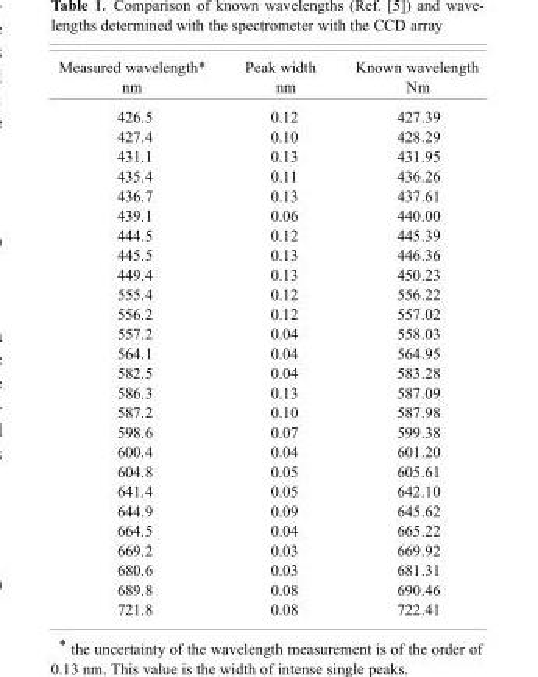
<table><thead><tr><td>Measured wavelength* nm</td><td>Peak width nm</td><td>Known wavelength Nm</td></tr></thead><tbody><tr><td>426.5</td><td>0.12</td><td>427.39</td></tr><tr><td>427.4</td><td>0.10</td><td>428.29</td></tr><tr><td>431.1</td><td>0.13</td><td>431.95</td></tr><tr><td>435.4</td><td>0.11</td><td>436.26</td></tr><tr><td>436.7</td><td>0.13</td><td>437.61</td></tr><tr><td>439.1</td><td>0.06</td><td>440.00</td></tr><tr><td>444.5</td><td>0.12</td><td>445.39</td></tr><tr><td>445.5</td><td>0.13</td><td>446.36</td></tr><tr><td>449.4</td><td>0.13</td><td>450.23</td></tr><tr><td>555.4</td><td>0.12</td><td>556.22</td></tr><tr><td>556.2</td><td>0.12</td><td>557.02</td></tr><tr><td>557.2</td><td>0.04</td><td>558.03</td></tr><tr><td>564.1</td><td>0.04</td><td>564.95</td></tr><tr><td>582.5</td><td>0.04</td><td>583.28</td></tr><tr><td>586.3</td><td>0.13</td><td>587.09</td></tr><tr><td>587.2</td><td>0.10</td><td>587.98</td></tr><tr><td>598.6</td><td>0.07</td><td>599.38</td></tr><tr><td>600.4</td><td>0.04</td><td>601.20</td></tr><tr><td>604.8</td><td>0.05</td><td>605.61</td></tr><tr><td>641.4</td><td>0.05</td><td>642.10</td></tr><tr><td>644.9</td><td>0.09</td><td>645.62</td></tr><tr><td>664.5</td><td>0.04</td><td>665.22</td></tr><tr><td>669.2</td><td>0.03</td><td>669.92</td></tr><tr><td>680.6</td><td>0.03</td><td>681.31</td></tr><tr><td>689.8</td><td>0.08</td><td>690.46</td></tr><tr><td>721.8</td><td>0.08</td><td>722.41</td></tr></tbody></table>